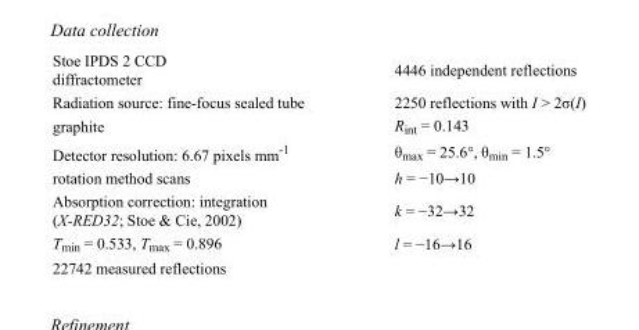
<table><tbody><tr><td>Stoe IPDS 2 CCD diffractometer</td><td>4446 independent reflections</td></tr><tr><td>Radiation source: fine-focus sealed tube</td><td>2250 reflections with I &gt; 2σ(I)</td></tr><tr><td>graphite</td><td>R<sub>int</sub> = 0.143</td></tr><tr><td>Detector resolution: 6.67 pixels mm<sup>-1</sup></td><td>θ<sub>max</sub> = 25.6°, θ<sub>min</sub> = 1.5°</td></tr><tr><td>rotation method scans</td><td>h = −10→10</td></tr><tr><td>Absorption correction: integration (X-RED32; Stoe &amp; Cie, 2002)</td><td>k = −32→32</td></tr><tr><td>T<sub>min</sub> = 0.533, T<sub>max</sub> = 0.896</td><td>l = −16→16</td></tr><tr><td>22742 measured reflections</td><td></td></tr></tbody></table>